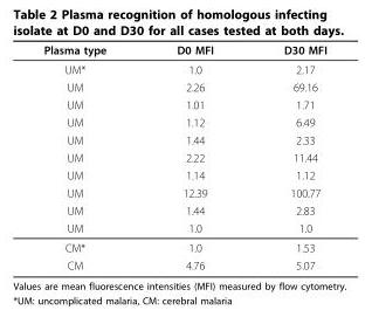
<table><thead><tr><td>Plasma type</td><td>D0 MFI</td><td>D30 MFI</td></tr></thead><tbody><tr><td>UM*</td><td>1.0</td><td>2.17</td></tr><tr><td>UM</td><td>2.26</td><td>69.16</td></tr><tr><td>UM</td><td>1.01</td><td>1.71</td></tr><tr><td>UM</td><td>1.12</td><td>6.49</td></tr><tr><td>UM</td><td>1.44</td><td>2.33</td></tr><tr><td>UM</td><td>2.22</td><td>11.44</td></tr><tr><td>UM</td><td>1.14</td><td>1.12</td></tr><tr><td>UM</td><td>12.39</td><td>100.77</td></tr><tr><td>UM</td><td>1.44</td><td>2.83</td></tr><tr><td>UM</td><td>1.0</td><td>1.0</td></tr><tr><td>CM*</td><td>1.0</td><td>1.53</td></tr><tr><td>CM</td><td>4.76</td><td>5.07</td></tr></tbody></table>